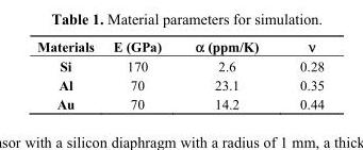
<table><thead><tr><td>Materials</td><td>E (GPa)</td><td>α (ppm/K)</td><td>ν</td></tr></thead><tbody><tr><td>Si</td><td>170</td><td>2.6</td><td>0.28</td></tr><tr><td>Al</td><td>70</td><td>23.1</td><td>0.35</td></tr><tr><td>Au</td><td>70</td><td>14.2</td><td>0.44</td></tr></tbody></table>